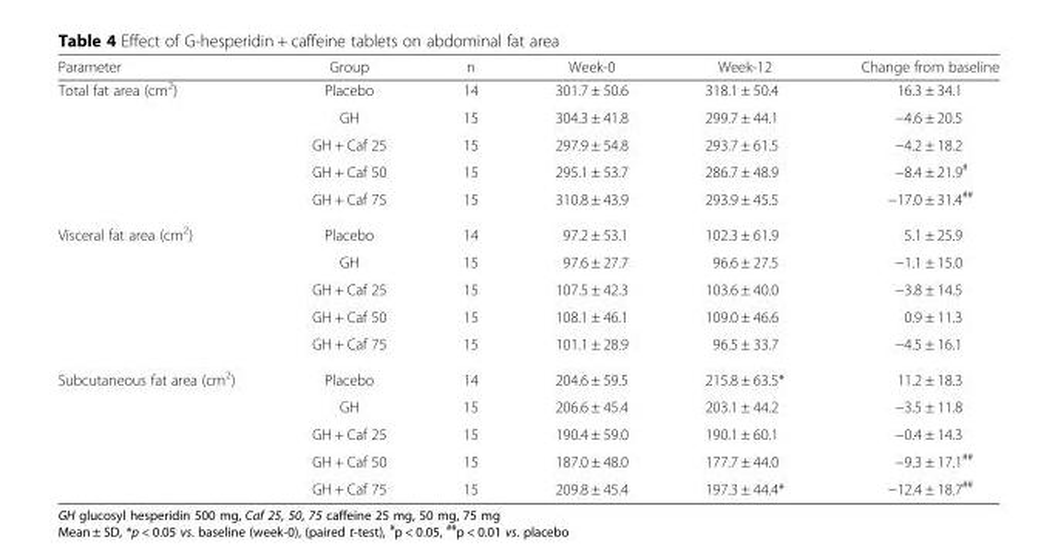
<table><thead><tr><td>Parameter</td><td>Group</td><td>n</td><td>Week-0</td><td>Week-12</td><td>Change from baseline</td></tr></thead><tbody><tr><td rowspan="5">Total fat area (cm<sup>2</sup>)</td><td>Placebo</td><td>14</td><td>301.7 ± 50.6</td><td>318.1 ± 50.4</td><td>16.3 ± 34.1</td></tr><tr><td>GH</td><td>15</td><td>304.3 ± 41.8</td><td>299.7 ± 44.1</td><td>−4.6 ± 20.5</td></tr><tr><td>GH + Caf 25</td><td>15</td><td>297.9 ± 54.8</td><td>293.7 ± 61.5</td><td>−4.2 ± 18.2</td></tr><tr><td>GH + Caf 50</td><td>15</td><td>295.1 ± 53.7</td><td>286.7 ± 48.9</td><td>−8.4 ± 21.9<sup>#</sup></td></tr><tr><td>GH + Caf 75</td><td>15</td><td>310.8 ± 43.9</td><td>293.9 ± 45.5</td><td>−17.0 ± 31.4<sup>##</sup></td></tr><tr><td rowspan="5">Visceral fat area (cm<sup>2</sup>)</td><td>Placebo</td><td>14</td><td>97.2 ± 53.1</td><td>102.3 ± 61.9</td><td>5.1 ± 25.9</td></tr><tr><td>GH</td><td>15</td><td>97.6 ± 27.7</td><td>96.6 ± 27.5</td><td>−1.1 ± 15.0</td></tr><tr><td>GH + Caf 25</td><td>15</td><td>107.5 ± 42.3</td><td>103.6 ± 40.0</td><td>−3.8 ± 14.5</td></tr><tr><td>GH + Caf 50</td><td>15</td><td>108.1 ± 46.1</td><td>109.0 ± 46.6</td><td>0.9 ± 11.3</td></tr><tr><td>GH + Caf 75</td><td>15</td><td>101.1 ± 28.9</td><td>96.5 ± 33.7</td><td>−4.5 ± 16.1</td></tr><tr><td rowspan="5">Subcutaneous fat area (cm<sup>2</sup>)</td><td>Placebo</td><td>14</td><td>204.6 ± 59.5</td><td>215.8 ± 63.5*</td><td>11.2 ± 18.3</td></tr><tr><td>GH</td><td>15</td><td>206.6 ± 45.4</td><td>203.1 ± 44.2</td><td>−3.5 ± 11.8</td></tr><tr><td>GH + Caf 25</td><td>15</td><td>190.4 ± 59.0</td><td>190.1 ± 60.1</td><td>−0.4 ± 14.3</td></tr><tr><td>GH + Caf 50</td><td>15</td><td>187.0 ± 48.0</td><td>177.7 ± 44.0</td><td>−9.3 ± 17.1<sup>##</sup></td></tr><tr><td>GH + Caf 75</td><td>15</td><td>209.8 ± 45.4</td><td>197.3 ± 44.4*</td><td>−12.4 ± 18.7<sup>##</sup></td></tr></tbody></table>